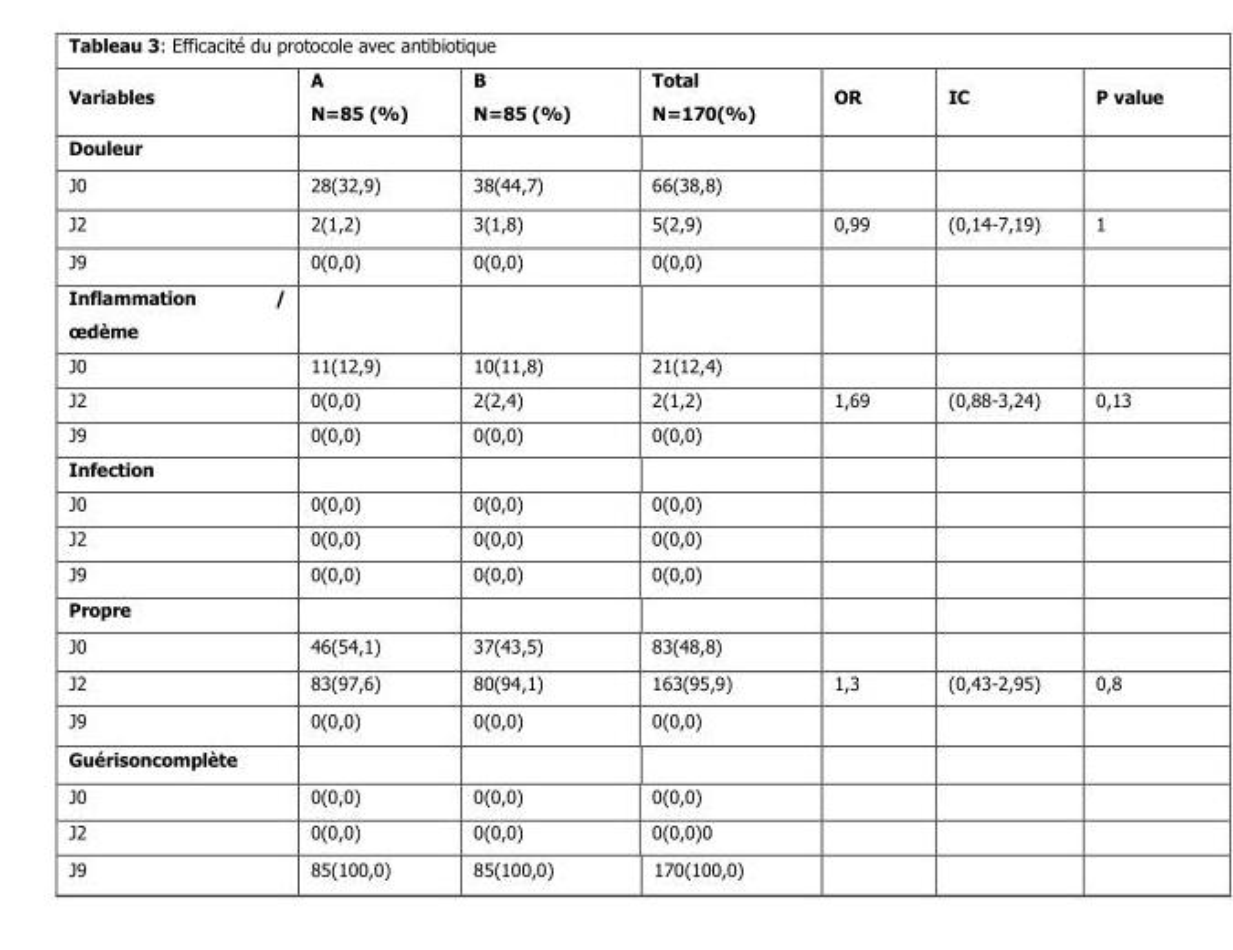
<table><thead><tr><td>Variables</td><td>A N=85 (%)</td><td>B N=85 (%)</td><td>Total N=170(%)</td><td>OR</td><td>IC</td><td>P value</td></tr></thead><tbody><tr><td colspan="7">Douleur</td></tr><tr><td>J0</td><td>28(32,9)</td><td>38(44,7)</td><td>66(38,8)</td><td></td><td></td><td></td></tr><tr><td>J2</td><td>2(1,2)</td><td>3(1,8)</td><td>5(2,9)</td><td>0,99</td><td>(0,14-7,19)</td><td>1</td></tr><tr><td>J9</td><td>0(0,0)</td><td>0(0,0)</td><td>0(0,0)</td><td></td><td></td><td></td></tr><tr><td colspan="7">Inflammation / œdème</td></tr><tr><td>J0</td><td>11(12,9)</td><td>10(11,8)</td><td>21(12,4)</td><td></td><td></td><td></td></tr><tr><td>J2</td><td>0(0,0)</td><td>2(2,4)</td><td>2(1,2)</td><td>1,69</td><td>(0,88-3,24)</td><td>0,13</td></tr><tr><td>J9</td><td>0(0,0)</td><td>0(0,0)</td><td>0(0,0)</td><td></td><td></td><td></td></tr><tr><td colspan="7">Infection</td></tr><tr><td>J0</td><td>0(0,0)</td><td>0(0,0)</td><td>0(0,0)</td><td></td><td></td><td></td></tr><tr><td>J2</td><td>0(0,0)</td><td>0(0,0)</td><td>0(0,0)</td><td></td><td></td><td></td></tr><tr><td>J9</td><td>0(0,0)</td><td>0(0,0)</td><td>0(0,0)</td><td></td><td></td><td></td></tr><tr><td colspan="7">Propre</td></tr><tr><td>J0</td><td>46(54,1)</td><td>37(43,5)</td><td>83(48,8)</td><td></td><td></td><td></td></tr><tr><td>J2</td><td>83(97,6)</td><td>80(94,1)</td><td>163(95,9)</td><td>1,3</td><td>(0,43-2,95)</td><td>0,8</td></tr><tr><td>J9</td><td>0(0,0)</td><td>0(0,0)</td><td>0(0,0)</td><td></td><td></td><td></td></tr><tr><td colspan="7">Guérisoncomplète</td></tr><tr><td>J0</td><td>0(0,0)</td><td>0(0,0)</td><td>0(0,0)</td><td></td><td></td><td></td></tr><tr><td>J2</td><td>0(0,0)</td><td>0(0,0)</td><td>0(0,0)0</td><td></td><td></td><td></td></tr><tr><td>J9</td><td>85(100,0)</td><td>85(100,0)</td><td>170(100,0)</td><td></td><td></td><td></td></tr></tbody></table>